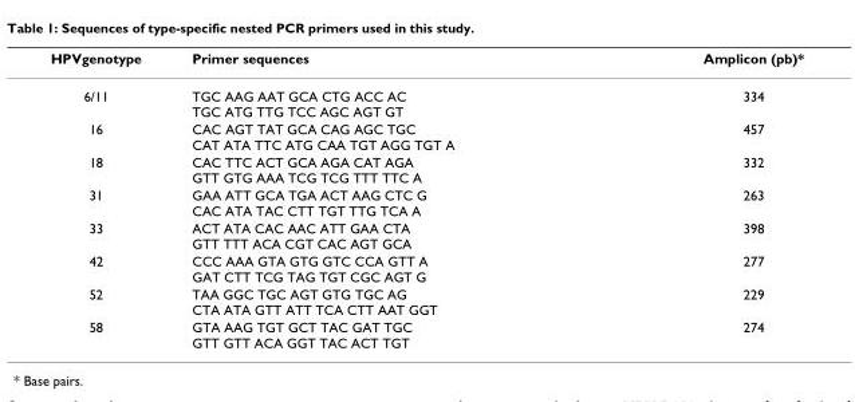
<table><thead><tr><td>HPVgenotype</td><td>Primer sequences</td><td>Amplicon (pb)*</td></tr></thead><tbody><tr><td>6/11</td><td>TGC AAG AAT GCA CTG ACC AC TGC ATG TTG TCC AGC AGT GT</td><td>334</td></tr><tr><td>16</td><td>CAC AGT TAT GCA CAG AGC TGC CAT ATA TTC ATG CAA TGT AGG TGT A</td><td>457</td></tr><tr><td>18</td><td>CAC TTC ACT GCA AGA CAT AGA GTT GTG AAA TCG TCG TTT TTC A</td><td>332</td></tr><tr><td>31</td><td>GAA ATT GCA TGA ACT AAG CTC G CAC ATA TAC CTT TGT TTG TCA A</td><td>263</td></tr><tr><td>33</td><td>ACT ATA CAC AAC ATT GAA CTA GTT TTT ACA CGT CAC AGT GCA</td><td>398</td></tr><tr><td>42</td><td>CCC AAA GTA GTG GTC CCA GTT A GAT CTT TCG TAG TGT CGC AGT G</td><td>277</td></tr><tr><td>52</td><td>TAA GGC TGC AGT GTG TGC AG CTA ATA GTT ATT TCA CTT AAT GGT</td><td>229</td></tr><tr><td>58</td><td>GTA AAG TGT GCT TAC GAT TGC GTT GTT ACA GGT TAC ACT TGT</td><td>274</td></tr></tbody></table>